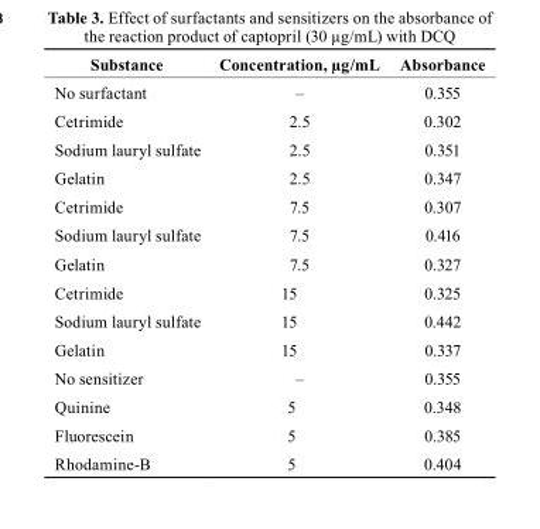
<table><thead><tr><td>substance</td><td>concentration, µg/mL</td><td>Absorbance</td></tr></thead><tbody><tr><td>No surfactant</td><td>–</td><td>0.355</td></tr><tr><td>Cetrimide</td><td>2.5</td><td>0.302</td></tr><tr><td>Sodium lauryl sulfate</td><td>2.5</td><td>0.351</td></tr><tr><td>Gelatin</td><td>2.5</td><td>0.347</td></tr><tr><td>Cetrimide</td><td>7.5</td><td>0.307</td></tr><tr><td>Sodium lauryl sulfate</td><td>7.5</td><td>0.416</td></tr><tr><td>Gelatin</td><td>7.5</td><td>0.327</td></tr><tr><td>Cetrimide</td><td>15</td><td>0.325</td></tr><tr><td>Sodium lauryl sulfate</td><td>15</td><td>0.442</td></tr><tr><td>Gelatin</td><td>15</td><td>0.337</td></tr><tr><td>No sensitizer</td><td>–</td><td>0.355</td></tr><tr><td>Quinine</td><td>5</td><td>0.348</td></tr><tr><td>Fluorescein</td><td>5</td><td>0.385</td></tr><tr><td>Rhodamine-B</td><td>5</td><td>0.404</td></tr></tbody></table>